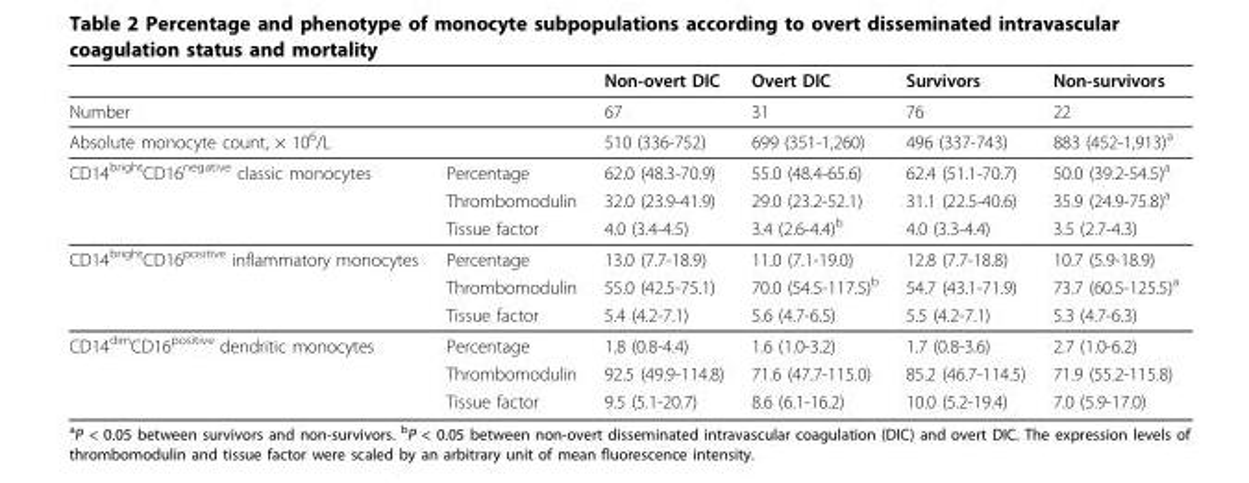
<table><thead><tr><td></td><td></td><td>Non-overt DIC</td><td>Overt DIC</td><td>Survivors</td><td>Non-survivors</td></tr></thead><tbody><tr><td>Number</td><td></td><td>67</td><td>31</td><td>76</td><td>22</td></tr><tr><td>Absolute monocyte count, × 10<sup>6</sup>/L</td><td></td><td>510 (336-752)</td><td>699 (351-1,260)</td><td>496 (337-743)</td><td>883 (452-1,913)<sup>a</sup></td></tr><tr><td rowspan="3">CD14<sup>bright</sup>CD16<sup>negative</sup> classic monocytes</td><td>Percentage</td><td>62.0 (48.3-70.9)</td><td>55.0 (48.4-65.6)</td><td>62.4 (51.1-70.7)</td><td>50.0 (39.2-54.5)<sup>a</sup></td></tr><tr><td>Thrombomodulin</td><td>32.0 (23.9-41.9)</td><td>29.0 (23.2-52.1)</td><td>31.1 (22.5-40.6)</td><td>35.9 (24.9-75.8)<sup>a</sup></td></tr><tr><td>Tissue factor</td><td>4.0 (3.4-4.5)</td><td>3.4 (2.6-4.4)<sup>b</sup></td><td>4.0 (3.3-4.4)</td><td>3.5 (2.7-4.3)</td></tr><tr><td rowspan="3">CD14<sup>bright</sup>CD16<sup>positive</sup> inflammatory monocytes</td><td>Percentage</td><td>13.0 (7.7-18.9)</td><td>11.0 (7.1-19.0)</td><td>12.8 (7.7-18.8)</td><td>10.7 (5.9-18.9)</td></tr><tr><td>Thrombomodulin</td><td>55.0 (42.5-75.1)</td><td>70.0 (54.5-117.5)<sup>b</sup></td><td>54.7 (43.1-71.9)</td><td>73.7 (60.5-125.5)<sup>a</sup></td></tr><tr><td>Tissue factor</td><td>5.4 (4.2-7.1)</td><td>5.6 (4.7-6.5)</td><td>5.5 (4.2-7.1)</td><td>5.3 (4.7-6.3)</td></tr><tr><td rowspan="3">CD14<sup>dim</sup>CD16<sup>positive</sup> dendritic monocytes</td><td>Percentage</td><td>1.8 (0.8-4.4)</td><td>1.6 (1.0-3.2)</td><td>1.7 (0.8-3.6)</td><td>2.7 (1.0-6.2)</td></tr><tr><td>Thrombomodulin</td><td>92.5 (49.9-114.8)</td><td>71.6 (47.7-115.0)</td><td>85.2 (46.7-114.5)</td><td>71.9 (55.2-115.8)</td></tr><tr><td>Tissue factor</td><td>9.5 (5.1-20.7)</td><td>8.6 (6.1-16.2)</td><td>10.0 (5.2-19.4)</td><td>7.0 (5.9-17.0)</td></tr></tbody></table>